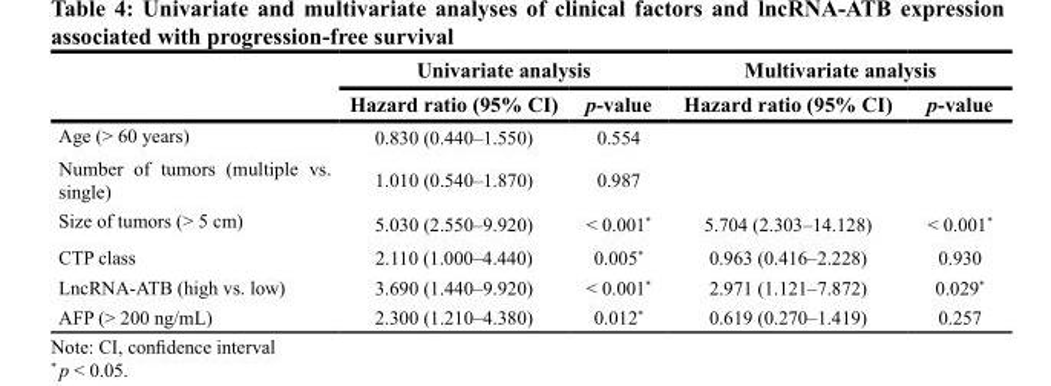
<table><thead><tr><td rowspan="2"></td><td colspan="2">Univariate analysis</td><td colspan="2">Multivariate analysis</td></tr><tr><td>Hazard ratio (95% CI)</td><td>p-value</td><td>Hazard ratio (95% CI)</td><td>p-value</td></tr></thead><tbody><tr><td>Age (&gt; 60 years)</td><td>0.830 (0.440–1.550)</td><td>0.554</td><td></td><td></td></tr><tr><td>Number of tumors (multiple vs. single)</td><td>1.010 (0.540–1.870)</td><td>0.987</td><td></td><td></td></tr><tr><td>Size of tumors (&gt; 5 cm)</td><td>5.030 (2.550–9.920)</td><td>&lt; 0.001*</td><td>5.704 (2.303–14.128)</td><td>&lt; 0.001*</td></tr><tr><td>CTP class</td><td>2.110 (1.000–4.440)</td><td>0.005*</td><td>0.963 (0.416–2.228)</td><td>0.930</td></tr><tr><td>LncRNA-ATB (high vs. low)</td><td>3.690 (1.440–9.920)</td><td>&lt; 0.001*</td><td>2.971 (1.121–7.872)</td><td>0.029*</td></tr><tr><td>AFP (&gt; 200 ng/mL)</td><td>2.300 (1.210–4.380)</td><td>0.012*</td><td>0.619 (0.270–1.419)</td><td>0.257</td></tr></tbody></table>